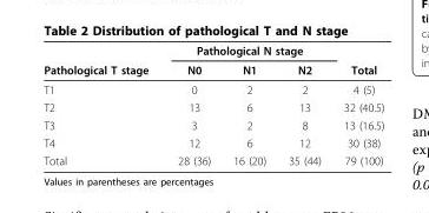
<table><thead><tr><td rowspan="2">Pathological T stage</td><td colspan="3">Pathological N stage</td><td rowspan="2">Total</td></tr><tr><td>N0</td><td>N1</td><td>N2</td></tr></thead><tbody><tr><td>T1</td><td>0</td><td>2</td><td>2</td><td>4 (5)</td></tr><tr><td>T2</td><td>13</td><td>6</td><td>13</td><td>32 (40.5)</td></tr><tr><td>T3</td><td>3</td><td>2</td><td>8</td><td>13 (16.5)</td></tr><tr><td>T4</td><td>12</td><td>6</td><td>12</td><td>30 (38)</td></tr><tr><td>Total</td><td>28 (36)</td><td>16 (20)</td><td>35 (44)</td><td>79 (100)</td></tr></tbody></table>